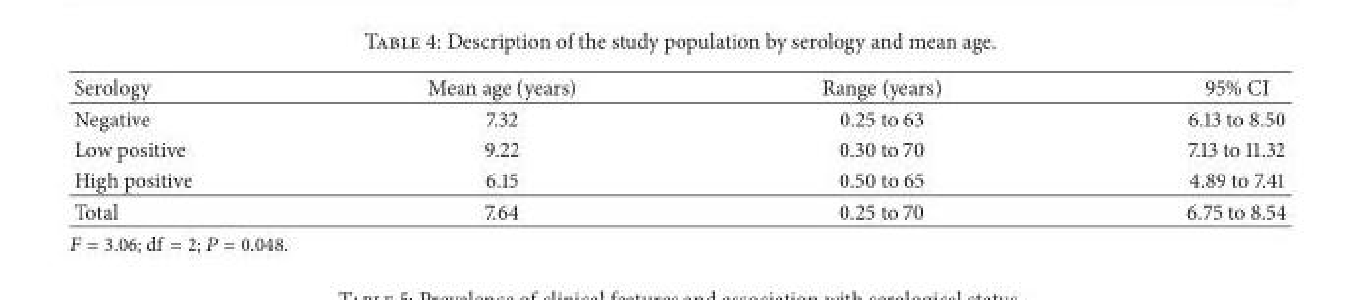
<table><thead><tr><td>Serology</td><td>Mean age (years)</td><td>Range (years)</td><td>95% CI</td></tr></thead><tbody><tr><td>Negative</td><td>7.32</td><td>0.25 to 63</td><td>6.13 to 8.50</td></tr><tr><td>Low positive</td><td>9.22</td><td>0.30 to 70</td><td>7.13 to 11.32</td></tr><tr><td>High positive</td><td>6.15</td><td>0.50 to 65</td><td>4.89 to 7.41</td></tr><tr><td>Total</td><td>7.64</td><td>0.25 to 70</td><td>6.75 to 8.54</td></tr></tbody></table>